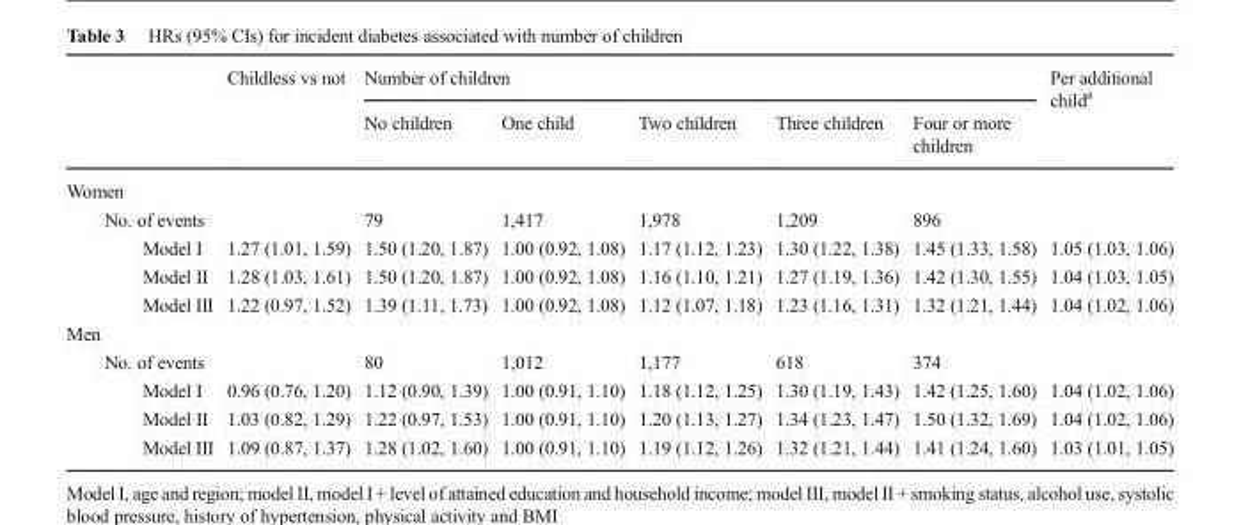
<table><thead><tr><td rowspan="2"></td><td rowspan="2">Childless vs not</td><td colspan="5">Number of children</td><td rowspan="2">Per additional child<sup>a</sup></td></tr><tr><td>No children</td><td>One child</td><td>Two children</td><td>Three children</td><td>Four or more children</td></tr></thead><tbody><tr><td colspan="8">Women</td></tr><tr><td>No. of events</td><td></td><td>79</td><td>1,417</td><td>1,978</td><td>1,209</td><td>896</td><td></td></tr><tr><td>Model I</td><td>1.27 (1.01, 1.59)</td><td>1.50 (1.20, 1.87)</td><td>1.00 (0.92, 1.08)</td><td>1.17 (1.12, 1.23)</td><td>1.30 (1.22, 1.38)</td><td>1.45 (1.33, 1.58)</td><td>1.05 (1.03, 1.06)</td></tr><tr><td>Model II</td><td>1.28 (1.03, 1.61)</td><td>1.50 (1.20, 1.87)</td><td>1.00 (0.92, 1.08)</td><td>1.16 (1.10, 1.21)</td><td>1.27 (1.19, 1.36)</td><td>1.42 (1.30, 1.55)</td><td>1.04 (1.03, 1.05)</td></tr><tr><td>Model III</td><td>1.22 (0.97, 1.52)</td><td>1.39 (1.11, 1.73)</td><td>1.00 (0.92, 1.08)</td><td>1.12 (1.07, 1.18)</td><td>1.23 (1.16, 1.31)</td><td>1.32 (1.21, 1.44)</td><td>1.04 (1.02, 1.06)</td></tr><tr><td colspan="8">Men</td></tr><tr><td>No. of events</td><td></td><td>80</td><td>1,012</td><td>1,177</td><td>618</td><td>374</td><td></td></tr><tr><td>Model I</td><td>0.96 (0.76, 1.20)</td><td>1.12 (0.90, 1.39)</td><td>1.00 (0.91, 1.10)</td><td>1.18 (1.12, 1.25)</td><td>1.30 (1.19, 1.43)</td><td>1.42 (1.25, 1.60)</td><td>1.04 (1.02, 1.06)</td></tr><tr><td>Model II</td><td>1.03 (0.82, 1.29)</td><td>1.22 (0.97, 1.53)</td><td>1.00 (0.91, 1.10)</td><td>1.20 (1.13, 1.27)</td><td>1.34 (1.23, 1.47)</td><td>1.50 (1.32, 1.69)</td><td>1.04 (1.02, 1.06)</td></tr><tr><td>Model III</td><td>1.09 (0.87, 1.37)</td><td>1.28 (1.02, 1.60)</td><td>1.00 (0.91, 1.10)</td><td>1.19 (1.12, 1.26)</td><td>1.32 (1.21, 1.44)</td><td>1.41 (1.24, 1.60)</td><td>1.03 (1.01, 1.05)</td></tr></tbody></table>